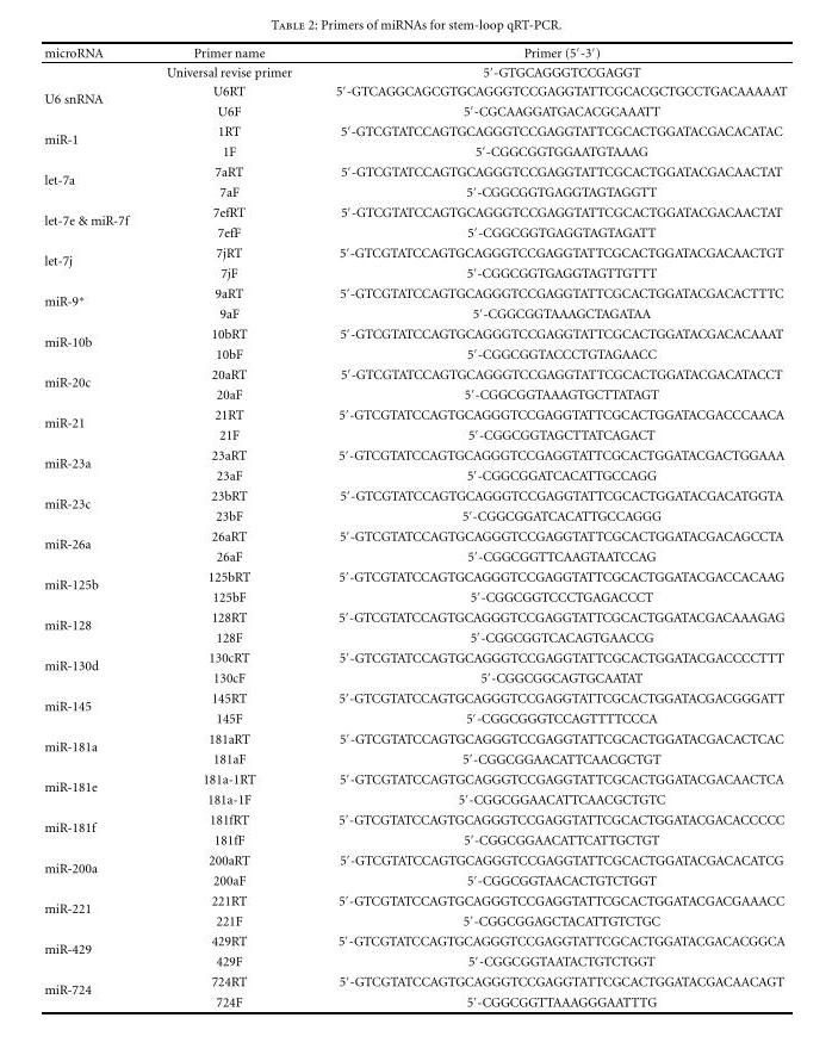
<table><thead><tr><td>microRNA</td><td>Primer name</td><td>Primer (5′-3′)</td></tr></thead><tbody><tr><td></td><td>Universal revise primer</td><td>5′-GTGCAGGGTCCGAGGT</td></tr><tr><td rowspan="2">U6 snRNA</td><td>U6RT</td><td>5′-GTCAGGCAGCGTGCAGGGTCCGAGGTATTCGCACGCTGCCTGACAAAAAT</td></tr><tr><td>U6F</td><td>5′-CGCAAGGATGACACGCAAATT</td></tr><tr><td rowspan="2">miR-1</td><td>1RT</td><td>5′-GTCGTATCCAGTGCAGGGTCCGAGGTATTCGCACTGGATACGACACATAC</td></tr><tr><td>1F</td><td>5′-CGGCGGTGGAATGTAAAG</td></tr><tr><td rowspan="2">let-7a</td><td>7aRT</td><td>5′-GTCGTATCCAGTGCAGGGTCCGAGGTATTCGCACTGGATACGACAACTAT</td></tr><tr><td>7aF</td><td>5′-CGGCGGTGAGGTAGTAGGTT</td></tr><tr><td rowspan="2">let-7e &amp; miR-7f</td><td>7efRT</td><td>5′-GTCGTATCCAGTGCAGGGTCCGAGGTATTCGCACTGGATACGACAACTAT</td></tr><tr><td>7efF</td><td>5′-CGGCGGTGAGGTAGTAGATT</td></tr><tr><td rowspan="2">let-7j</td><td>7jRT</td><td>5′-GTCGTATCCAGTGCAGGGTCCGAGGTATTCGCACTGGATACGACAACTGT</td></tr><tr><td>7jF</td><td>5′-CGGCGGTGAGGTAGTTGTTT</td></tr><tr><td rowspan="2">miR-9∗</td><td>9aRT</td><td>5′-GTCGTATCCAGTGCAGGGTCCGAGGTATTCGCACTGGATACGACACTTTC</td></tr><tr><td>9aF</td><td>5′-CGGCGGTAAAGCTAGATAA</td></tr><tr><td rowspan="2">miR-10b</td><td>10bRT</td><td>5′-GTCGTATCCAGTGCAGGGTCCGAGGTATTCGCACTGGATACGACACAAAT</td></tr><tr><td>10bF</td><td>5′-CGGCGGTACCCTGTAGAACC</td></tr><tr><td rowspan="2">miR-20c</td><td>20aRT</td><td>5′-GTCGTATCCAGTGCAGGGTCCGAGGTATTCGCACTGGATACGACATACCT</td></tr><tr><td>20aF</td><td>5′-CGGCGGTAAAGTGCTTATAGT</td></tr><tr><td rowspan="2">miR-21</td><td>21RT</td><td>5′-GTCGTATCCAGTGCAGGGTCCGAGGTATTCGCACTGGATACGACCCAACA</td></tr><tr><td>21F</td><td>5′-CGGCGGTAGCTTATCAGACT</td></tr><tr><td rowspan="2">miR-23a</td><td>23aRT</td><td>5′-GTCGTATCCAGTGCAGGGTCCGAGGTATTCGCACTGGATACGACTGGAAA</td></tr><tr><td>23aF</td><td>5′-CGGCGGATCACATTGCCAGG</td></tr><tr><td rowspan="2">miR-23c</td><td>23bRT</td><td>5′-GTCGTATCCAGTGCAGGGTCCGAGGTATTCGCACTGGATACGACATGGTA</td></tr><tr><td>23bF</td><td>5′-CGGCGGATCACATTGCCAGGG</td></tr><tr><td rowspan="2">miR-26a</td><td>26aRT</td><td>5′-GTCGTATCCAGTGCAGGGTCCGAGGTATTCGCACTGGATACGACAGCCTA</td></tr><tr><td>26aF</td><td>5′-CGGCGGTTCAAGTAATCCAG</td></tr><tr><td rowspan="2">miR-125b</td><td>125bRT</td><td>5′-GTCGTATCCAGTGCAGGGTCCGAGGTATTCGCACTGGATACGACCACAAG</td></tr><tr><td>125bF</td><td>5′-CGGCGGTCCCTGAGACCCT</td></tr><tr><td rowspan="2">miR-128</td><td>128RT</td><td>5′-GTCGTATCCAGTGCAGGGTCCGAGGTATTCGCACTGGATACGACAAAGAG</td></tr><tr><td>128F</td><td>5′-CGGCGGTCACAGTGAACCG</td></tr><tr><td rowspan="2">miR-130d</td><td>130cRT</td><td>5′-GTCGTATCCAGTGCAGGGTCCGAGGTATTCGCACTGGATACGACCCCTTT</td></tr><tr><td>130cF</td><td>5′-CGGCGGCAGTGCAATAT</td></tr><tr><td rowspan="2">miR-145</td><td>145RT</td><td>5′-GTCGTATCCAGTGCAGGGTCCGAGGTATTCGCACTGGATACGACGGGATT</td></tr><tr><td>145F</td><td>5′-CGGCGGGTCCAGTTTTCCCA</td></tr><tr><td rowspan="2">miR-181a</td><td>181aRT</td><td>5′-GTCGTATCCAGTGCAGGGTCCGAGGTATTCGCACTGGATACGACACTCAC</td></tr><tr><td>181aF</td><td>5′-CGGCGGAACATTCAACGCTGT</td></tr><tr><td rowspan="2">miR-181e</td><td>181a-1RT</td><td>5′-GTCGTATCCAGTGCAGGGTCCGAGGTATTCGCACTGGATACGACAACTCA</td></tr><tr><td>181a-1F</td><td>5′-CGGCGGAACATTCAACGCTGTC</td></tr><tr><td rowspan="2">miR-181f</td><td>181fRT</td><td>5′-GTCGTATCCAGTGCAGGGTCCGAGGTATTCGCACTGGATACGACACCCCC</td></tr><tr><td>181fF</td><td>5′-CGGCGGAACATTCATTGCTGT</td></tr><tr><td rowspan="2">miR-200a</td><td>200aRT</td><td>5′-GTCGTATCCAGTGCAGGGTCCGAGGTATTCGCACTGGATACGACACATCG</td></tr><tr><td>200aF</td><td>5′-CGGCGGTAACACTGTCTGGT</td></tr><tr><td rowspan="2">miR-221</td><td>221RT</td><td>5′-GTCGTATCCAGTGCAGGGTCCGAGGTATTCGCACTGGATACGACGAAACC</td></tr><tr><td>221F</td><td>5′-CGGCGGAGCTACATTGTCTGC</td></tr><tr><td rowspan="2">miR-429</td><td>429RT</td><td>5′-GTCGTATCCAGTGCAGGGTCCGAGGTATTCGCACTGGATACGACACGGCA</td></tr><tr><td>429F</td><td>5′-CGGCGGTAATACTGTCTGGT</td></tr><tr><td rowspan="2">miR-724</td><td>724RT</td><td>5′-GTCGTATCCAGTGCAGGGTCCGAGGTATTCGCACTGGATACGACAACAGT</td></tr><tr><td>724F</td><td>5′-CGGCGGTTAAAGGGAATTTG</td></tr></tbody></table>